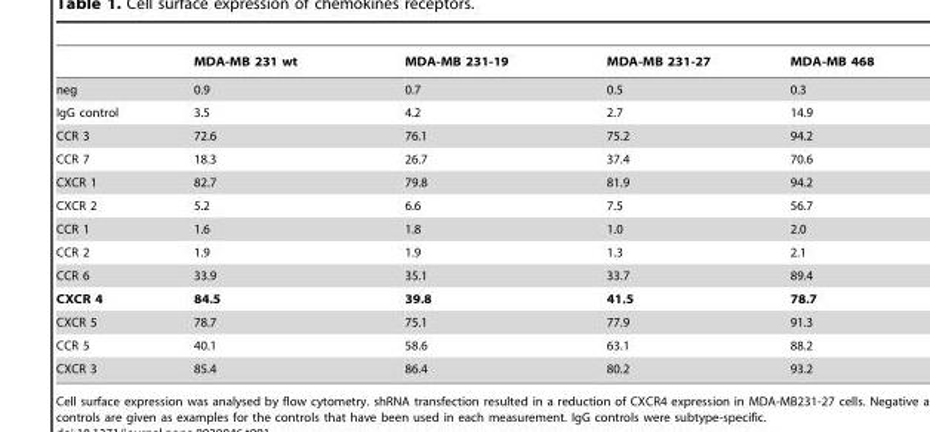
<table><thead><tr><td></td><td>MDA-MB 231 wt</td><td>MDA-MB 231-19</td><td>MDA-MB 231-27</td><td>MDA-MB 468</td></tr></thead><tbody><tr><td>neg</td><td>0.9</td><td>0.7</td><td>0.5</td><td>0.3</td></tr><tr><td>IgG control</td><td>3.5</td><td>4.2</td><td>2.7</td><td>14.9</td></tr><tr><td>CCR 3</td><td>72.6</td><td>76.1</td><td>75.2</td><td>94.2</td></tr><tr><td>CCR 7</td><td>18.3</td><td>26.7</td><td>37.4</td><td>70.6</td></tr><tr><td>CXCR 1</td><td>82.7</td><td>79.8</td><td>81.9</td><td>94.2</td></tr><tr><td>CXCR 2</td><td>5.2</td><td>6.6</td><td>7.5</td><td>56.7</td></tr><tr><td>CCR 1</td><td>1.6</td><td>1.8</td><td>1.0</td><td>2.0</td></tr><tr><td>CCR 2</td><td>1.9</td><td>1.9</td><td>1.3</td><td>2.1</td></tr><tr><td>CCR 6</td><td>33.9</td><td>35.1</td><td>33.7</td><td>89.4</td></tr><tr><td>CXCR 4</td><td>84.5</td><td>39.8</td><td>41.5</td><td>78.7</td></tr><tr><td>CXCR 5</td><td>78.7</td><td>75.1</td><td>77.9</td><td>91.3</td></tr><tr><td>CCR 5</td><td>40.1</td><td>58.6</td><td>63.1</td><td>88.2</td></tr><tr><td>CXCR 3</td><td>85.4</td><td>86.4</td><td>80.2</td><td>93.2</td></tr></tbody></table>